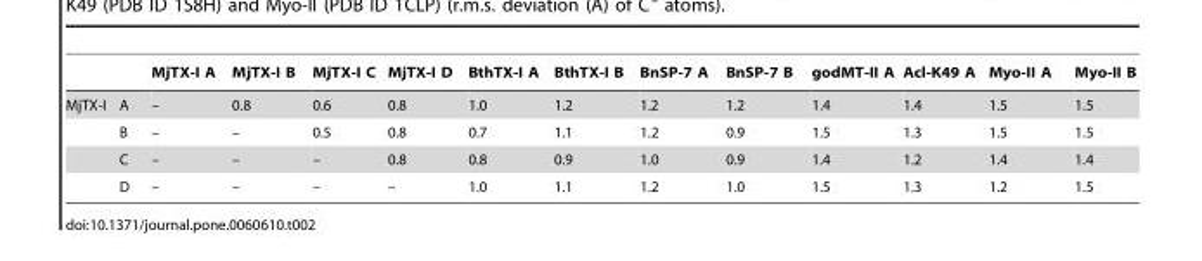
<table><thead><tr><td></td><td></td><td>MjTX-I A</td><td>MjTX-I B</td><td>MjTX-I C</td><td>MjTX-I D</td><td>BthTX-I A</td><td>BthTX-I B</td><td>BnSP-7 A</td><td>BnSP-7 B</td><td>godMT-II A</td><td>Acl-K49 A</td><td>Myo-II A</td><td>Myo-II B</td></tr></thead><tbody><tr><td rowspan="4">MjTX-I</td><td>A</td><td>–</td><td>0.8</td><td>0.6</td><td>0.8</td><td>1.0</td><td>1.2</td><td>1.2</td><td>1.2</td><td>1.4</td><td>1.4</td><td>1.5</td><td>1.5</td></tr><tr><td>B</td><td>–</td><td>–</td><td>0.5</td><td>0.8</td><td>0.7</td><td>1.1</td><td>1.2</td><td>0.9</td><td>1.5</td><td>1.3</td><td>1.5</td><td>1.5</td></tr><tr><td>C</td><td>–</td><td>–</td><td>–</td><td>0.8</td><td>0.8</td><td>0.9</td><td>1.0</td><td>0.9</td><td>1.4</td><td>1.2</td><td>1.4</td><td>1.4</td></tr><tr><td>D</td><td>–</td><td>–</td><td>–</td><td>–</td><td>1.0</td><td>1.1</td><td>1.2</td><td>1.0</td><td>1.5</td><td>1.3</td><td>1.2</td><td>1.5</td></tr></tbody></table>